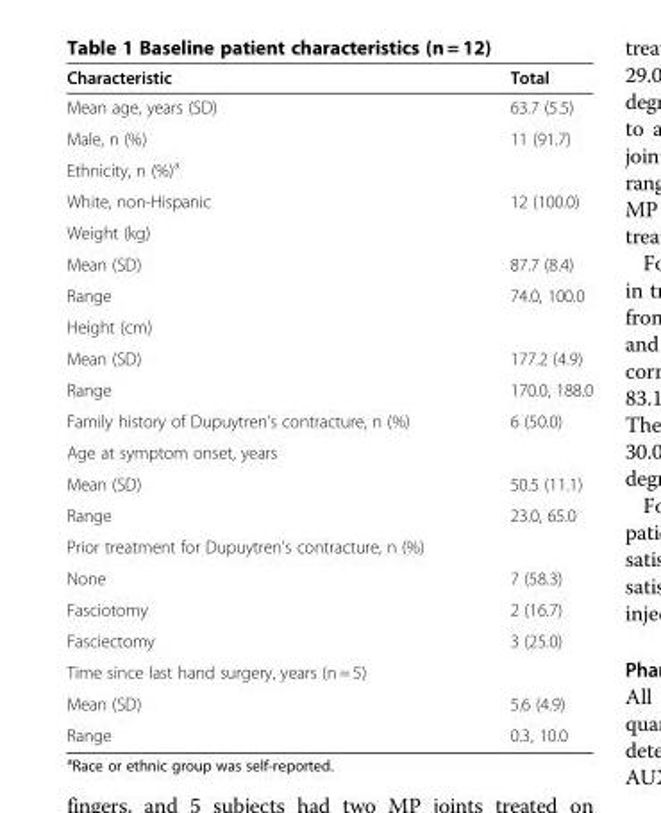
<table><thead><tr><td>Characteristic</td><td>Total</td></tr></thead><tbody><tr><td>Mean age, years (SD)</td><td>63.7 (5.5)</td></tr><tr><td>Male, n (%)</td><td>11 (91.7)</td></tr><tr><td colspan="2">Ethnicity, n (%)<sup>a</sup></td></tr><tr><td>White, non-Hispanic</td><td>12 (100.0)</td></tr><tr><td colspan="2">Weight (kg)</td></tr><tr><td>Mean (SD)</td><td>87.7 (8.4)</td></tr><tr><td>Range</td><td>74.0, 100.0</td></tr><tr><td colspan="2">Height (cm)</td></tr><tr><td>Mean (SD)</td><td>177.2 (4.9)</td></tr><tr><td>Range</td><td>170.0, 188.0</td></tr><tr><td>Family history of Dupuytren’s contracture, n (%)</td><td>6 (50.0)</td></tr><tr><td colspan="2">Age at symptom onset, years</td></tr><tr><td>Mean (SD)</td><td>50.5 (11.1)</td></tr><tr><td>Range</td><td>23.0, 65.0</td></tr><tr><td colspan="2">Prior treatment for Dupuytren’s contracture, n (%)</td></tr><tr><td>None</td><td>7 (58.3)</td></tr><tr><td>Fasciotomy</td><td>2 (16.7)</td></tr><tr><td>Fasciectomy</td><td>3 (25.0)</td></tr><tr><td colspan="2">Time since last hand surgery, years (n = 5)</td></tr><tr><td>Mean (SD)</td><td>5.6 (4.9)</td></tr><tr><td>Range</td><td>0.3, 10.0</td></tr></tbody></table>